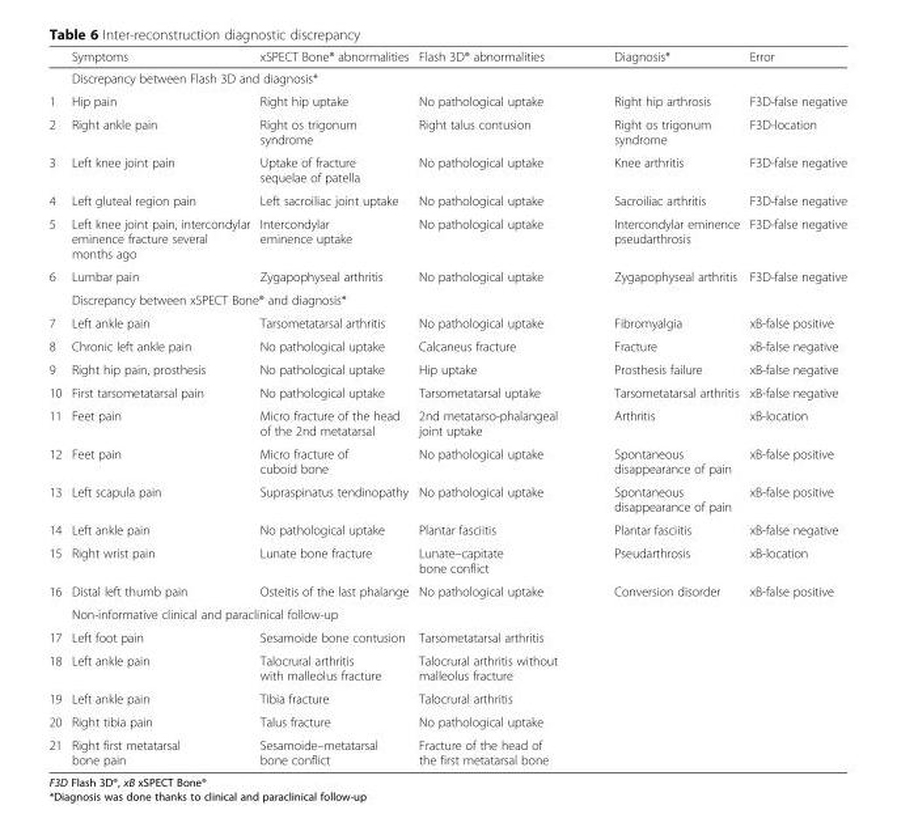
<table><thead><tr><td></td><td>Symptoms</td><td>xSPECT Bone® abnormalities</td><td>Flash 3D® abnormalities</td><td>Diagnosis*</td><td>Error</td></tr></thead><tbody><tr><td></td><td colspan="5">Discrepancy between Flash 3D and diagnosis*</td></tr><tr><td>1</td><td>Hip pain</td><td>Right hip uptake</td><td>No pathological uptake</td><td>Right hip arthrosis</td><td>F3D-false negative</td></tr><tr><td>2</td><td>Right ankle pain</td><td>Right os trigonum syndrome</td><td>Right talus contusion</td><td>Right os trigonum syndrome</td><td>F3D-location</td></tr><tr><td>3</td><td>Left knee joint pain</td><td>Uptake of fracture sequelae of patella</td><td>No pathological uptake</td><td>Knee arthritis</td><td>F3D-false negative</td></tr><tr><td>4</td><td>Left gluteal region pain</td><td>Left sacroiliac joint uptake</td><td>No pathological uptake</td><td>Sacroiliac arthritis</td><td>F3D-false negative</td></tr><tr><td>5</td><td>Left knee joint pain, intercondylar eminence fracture several months ago</td><td>Intercondylar eminence uptake</td><td>No pathological uptake</td><td>Intercondylar eminence pseudarthrosis</td><td>F3D-false negative</td></tr><tr><td rowspan="2">6</td><td>Lumbar pain</td><td>Zygapophyseal arthritis</td><td>No pathological uptake</td><td>Zygapophyseal arthritis</td><td>F3D-false negative</td></tr><tr><td colspan="5">Discrepancy between xSPECT Bone® and diagnosis*</td></tr><tr><td>7</td><td>Left ankle pain</td><td>Tarsometatarsal arthritis</td><td>No pathological uptake</td><td>Fibromyalgia</td><td>xB-false positive</td></tr><tr><td>8</td><td>Chronic left ankle pain</td><td>No pathological uptake</td><td>Calcaneus fracture</td><td>Fracture</td><td>xB-false negative</td></tr><tr><td>9</td><td>Right hip pain, prosthesis</td><td>No pathological uptake</td><td>Hip uptake</td><td>Prosthesis failure</td><td>xB-false negative</td></tr><tr><td>10</td><td>First tarsometatarsal pain</td><td>No pathological uptake</td><td>Tarsometatarsal uptake</td><td>Tarsometatarsal arthritis</td><td>xB-false negative</td></tr><tr><td>11</td><td>Feet pain</td><td>Micro fracture of the head of the 2nd metatarsal</td><td>2nd metatarso-phalangeal joint uptake</td><td>Arthritis</td><td>xB-location</td></tr><tr><td>12</td><td>Feet pain</td><td>Micro fracture of cuboid bone</td><td>No pathological uptake</td><td>Spontaneous disappearance of pain</td><td>xB-false positive</td></tr><tr><td>13</td><td>Left scapula pain</td><td>Supraspinatus tendinopathy</td><td>No pathological uptake</td><td>Spontaneous disappearance of pain</td><td>xB-false positive</td></tr><tr><td>14</td><td>Left ankle pain</td><td>No pathological uptake</td><td>Plantar fasciitis</td><td>Plantar fasciitis</td><td>xB-false negative</td></tr><tr><td>15</td><td>Right wrist pain</td><td>Lunate bone fracture</td><td>Lunate–capitate bone conflict</td><td>Pseudarthrosis</td><td>xB-location</td></tr><tr><td rowspan="2">16</td><td>Distal left thumb pain</td><td>Osteitis of the last phalange</td><td>No pathological uptake</td><td>Conversion disorder</td><td>xB-false positive</td></tr><tr><td colspan="5">Non-informative clinical and paraclinical follow-up</td></tr><tr><td>17</td><td>Left foot pain</td><td>Sesamoide bone contusion</td><td>Tarsometatarsal arthritis</td><td></td><td rowspan="5"></td></tr><tr><td>18</td><td>Left ankle pain</td><td>Talocrural arthritis with malleolus fracture</td><td>Talocrural arthritis without malleolus fracture</td><td></td></tr><tr><td>19</td><td>Left ankle pain</td><td>Tibia fracture</td><td>Talocrural arthritis</td><td></td></tr><tr><td>20</td><td>Right tibia pain</td><td>Talus fracture</td><td>No pathological uptake</td><td></td></tr><tr><td>21</td><td>Right first metatarsal bone pain</td><td>Sesamoide–metatarsal bone conflict</td><td>Fracture of the head of the first metatarsal bone</td><td></td></tr></tbody></table>